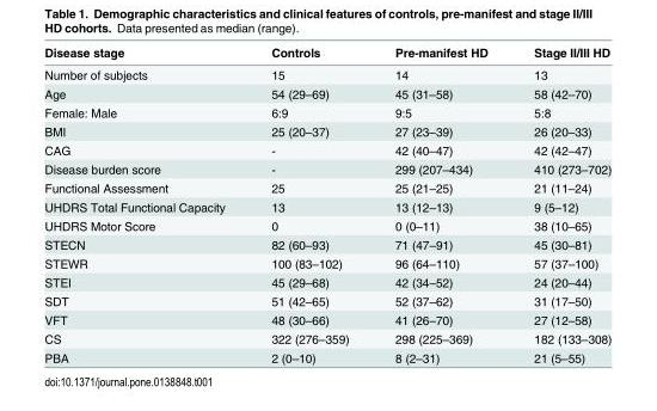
<table><thead><tr><td>Disease stage</td><td>Controls</td><td>Pre-manifest HD</td><td>Stage II/III HD</td></tr></thead><tbody><tr><td>Number of subjects</td><td>15</td><td>14</td><td>13</td></tr><tr><td>Age</td><td>54 (29–69)</td><td>45 (31–58)</td><td>58 (42–70)</td></tr><tr><td>Female: Male</td><td>6:9</td><td>9:5</td><td>5:8</td></tr><tr><td>BMI</td><td>25 (20–37)</td><td>27 (23–39)</td><td>26 (20–33)</td></tr><tr><td>CAG</td><td>-</td><td>42 (40–47)</td><td>42 (42–47)</td></tr><tr><td>Disease burden score</td><td>-</td><td>299 (207–434)</td><td>410 (273–702)</td></tr><tr><td>Functional Assessment</td><td>25</td><td>25 (21–25)</td><td>21 (11–24)</td></tr><tr><td>UHDRS Total Functional Capacity</td><td>13</td><td>13 (12–13)</td><td>9 (5–12)</td></tr><tr><td>UHDRS Motor Score</td><td>0</td><td>0 (0–11)</td><td>38 (10–65)</td></tr><tr><td>STECN</td><td>82 (60–93)</td><td>71 (47–91)</td><td>45 (30–81)</td></tr><tr><td>STEWR</td><td>100 (83–102)</td><td>96 (64–110)</td><td>57 (37–100)</td></tr><tr><td>STEI</td><td>45 (29–68)</td><td>42 (34–52)</td><td>24 (20–44)</td></tr><tr><td>SDT</td><td>51 (42–65)</td><td>52 (37–62)</td><td>31 (17–50)</td></tr><tr><td>VFT</td><td>48 (30–66)</td><td>41 (26–70)</td><td>27 (12–58)</td></tr><tr><td>CS</td><td>322 (276–359)</td><td>298 (225–369)</td><td>182 (133–308)</td></tr><tr><td>PBA</td><td>2 (0–10)</td><td>8 (2–31)</td><td>21 (5–55)</td></tr></tbody></table>